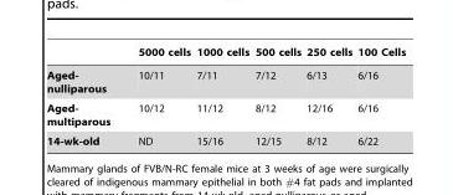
<table><thead><tr><td></td><td>5000 cells</td><td>1000 cells</td><td>500 cells</td><td>250 cells</td><td>100 Cells</td></tr></thead><tbody><tr><td>Aged- nulliparous</td><td>10/11</td><td>7/11</td><td>7/12</td><td>6/13</td><td>6/16</td></tr><tr><td>Aged- multiparous</td><td>10/12</td><td>11/12</td><td>8/12</td><td>12/16</td><td>6/16</td></tr><tr><td>14-wk-old</td><td>ND</td><td>15/16</td><td>12/15</td><td>8/12</td><td>6/22</td></tr></tbody></table>